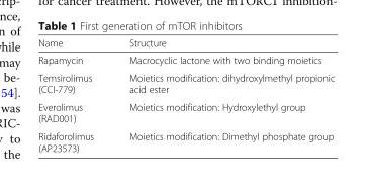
<table><thead><tr><td>Name</td><td>Structure</td></tr></thead><tbody><tr><td>Rapamycin</td><td>Macrocyclic lactone with two binding moietics</td></tr><tr><td>Temsirolimus (CCI-779)</td><td>Moietics modification: dihydroxylmethyl propionic acid ester</td></tr><tr><td>Everolimus (RAD001)</td><td>Moietics modification: Hydroxylethyl group</td></tr><tr><td>Ridaforolimus (AP23573)</td><td>Moietics modification: Dimethyl phosphate group</td></tr></tbody></table>